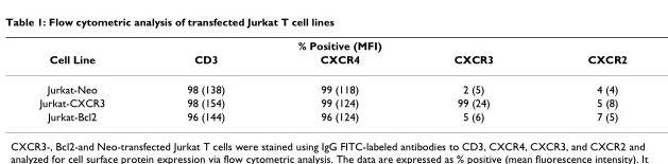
<table><thead><tr><td colspan="5">% Positive (MFI)</td></tr><tr><td>Cell Line</td><td>CD3</td><td>CXCR4</td><td>CXCR3</td><td>CXCR2</td></tr></thead><tbody><tr><td>Jurkat-Neo</td><td>98 (138)</td><td>99 (118)</td><td>2 (5)</td><td>4 (4)</td></tr><tr><td>Jurkat-CXCR3</td><td>98 (154)</td><td>99 (124)</td><td>99 (24)</td><td>5 (8)</td></tr><tr><td>Jurkat-Bcl2</td><td>96 (144)</td><td>96 (124)</td><td>5 (6)</td><td>7 (5)</td></tr></tbody></table>